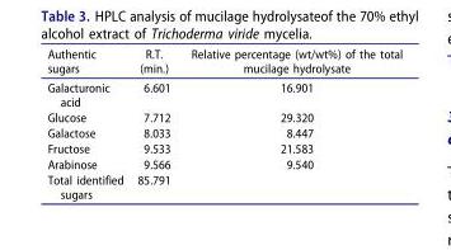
<table><thead><tr><td>Authentic sugars</td><td>R.T. (min.)</td><td>Relative percentage (wt/wt%) of the total mucilage hydrolysate</td></tr></thead><tbody><tr><td>Galacturonic acid</td><td>6.601</td><td>16.901</td></tr><tr><td>Glucose</td><td>7.712</td><td>29.320</td></tr><tr><td>Galactose</td><td>8.033</td><td>8.447</td></tr><tr><td>Fructose</td><td>9.533</td><td>21.583</td></tr><tr><td>Arabinose</td><td>9.566</td><td>9.540</td></tr><tr><td>Total identified sugars</td><td>85.791</td><td></td></tr></tbody></table>